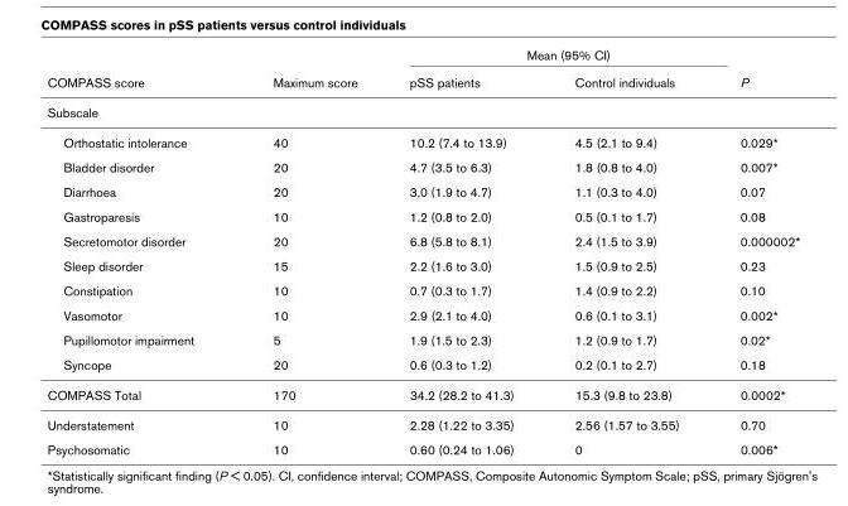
<table><thead><tr><td rowspan="2">COMPASS score</td><td rowspan="2">Maximum score</td><td colspan="2">Mean (95% CI)</td><td rowspan="2">P</td></tr><tr><td>pSS patients</td><td>Control individuals</td></tr></thead><tbody><tr><td colspan="5">Subscale</td></tr><tr><td>Orthostatic intolerance</td><td>40</td><td>10.2 (7.4 to 13.9)</td><td>4.5 (2.1 to 9.4)</td><td>0.029*</td></tr><tr><td>Bladder disorder</td><td>20</td><td>4.7 (3.5 to 6.3)</td><td>1.8 (0.8 to 4.0)</td><td>0.007*</td></tr><tr><td>Diarrhoea</td><td>20</td><td>3.0 (1.9 to 4.7)</td><td>1.1 (0.3 to 4.0)</td><td>0.07</td></tr><tr><td>Gastroparesis</td><td>10</td><td>1.2 (0.8 to 2.0)</td><td>0.5 (0.1 to 1.7)</td><td>0.08</td></tr><tr><td>Secretomotor disorder</td><td>20</td><td>6.8 (5.8 to 8.1)</td><td>2.4 (1.5 to 3.9)</td><td>0.000002*</td></tr><tr><td>Sleep disorder</td><td>15</td><td>2.2 (1.6 to 3.0)</td><td>1.5 (0.9 to 2.5)</td><td>0.23</td></tr><tr><td>Constipation</td><td>10</td><td>0.7 (0.3 to 1.7)</td><td>1.4 (0.9 to 2.2)</td><td>0.10</td></tr><tr><td>Vasomotor</td><td>10</td><td>2.9 (2.1 to 4.0)</td><td>0.6 (0.1 to 3.1)</td><td>0.002*</td></tr><tr><td>Pupillomotor impairment</td><td>5</td><td>1.9 (1.5 to 2.3)</td><td>1.2 (0.9 to 1.7)</td><td>0.02*</td></tr><tr><td>Syncope</td><td>20</td><td>0.6 (0.3 to 1.2)</td><td>0.2 (0.1 to 2.7)</td><td>0.18</td></tr><tr><td>COMPASS Total</td><td>170</td><td>34.2 (28.2 to 41.3)</td><td>15.3 (9.8 to 23.8)</td><td>0.0002*</td></tr><tr><td>Understatement</td><td>10</td><td>2.28 (1.22 to 3.35)</td><td>2.56 (1.57 to 3.55)</td><td>0.70</td></tr><tr><td>Psychosomatic</td><td>10</td><td>0.60 (0.24 to 1.06)</td><td>0</td><td>0.006*</td></tr></tbody></table>